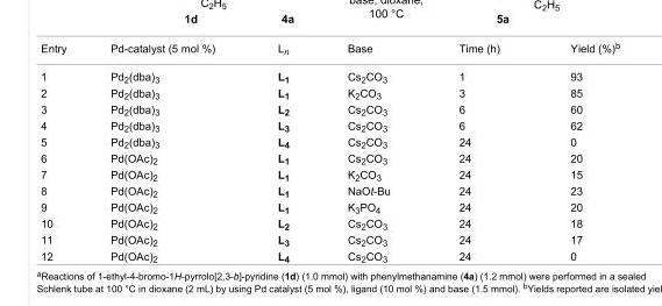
<table><tbody><tr><td>Entry</td><td>Pd-catalyst (5 mol %)</td><td>L<sub>n</sub></td><td>Base</td><td>Time (h)</td><td>Yield (%)<sup>b</sup></td></tr><tr><td>1</td><td>Pd<sub>2</sub>(dba)<sub>3</sub></td><td>L<sub>1</sub></td><td>Cs<sub>2</sub>CO<sub>3</sub></td><td>1</td><td>93</td></tr><tr><td>2</td><td>Pd<sub>2</sub>(dba)<sub>3</sub></td><td>L<sub>1</sub></td><td>K<sub>2</sub>CO<sub>3</sub></td><td>3</td><td>85</td></tr><tr><td>3</td><td>Pd<sub>2</sub>(dba)<sub>3</sub></td><td>L<sub>2</sub></td><td>Cs<sub>2</sub>CO<sub>3</sub></td><td>6</td><td>60</td></tr><tr><td>4</td><td>Pd<sub>2</sub>(dba)<sub>3</sub></td><td>L<sub>3</sub></td><td>Cs<sub>2</sub>CO<sub>3</sub></td><td>6</td><td>62</td></tr><tr><td>5</td><td>Pd<sub>2</sub>(dba)<sub>3</sub></td><td>L<sub>4</sub></td><td>Cs<sub>2</sub>CO<sub>3</sub></td><td>24</td><td>0</td></tr><tr><td>6</td><td>Pd(OAc)<sub>2</sub></td><td>L<sub>1</sub></td><td>Cs<sub>2</sub>CO<sub>3</sub></td><td>24</td><td>20</td></tr><tr><td>7</td><td>Pd(OAc)<sub>2</sub></td><td>L<sub>1</sub></td><td>K<sub>2</sub>CO<sub>3</sub></td><td>24</td><td>15</td></tr><tr><td>8</td><td>Pd(OAc)<sub>2</sub></td><td>L<sub>1</sub></td><td>NaOt-Bu</td><td>24</td><td>23</td></tr><tr><td>9</td><td>Pd(OAc)<sub>2</sub></td><td>L<sub>1</sub></td><td>K<sub>3</sub>PO<sub>4</sub></td><td>24</td><td>20</td></tr><tr><td>10</td><td>Pd(OAc)<sub>2</sub></td><td>L<sub>2</sub></td><td>Cs<sub>2</sub>CO<sub>3</sub></td><td>24</td><td>18</td></tr><tr><td>11</td><td>Pd(OAc)<sub>2</sub></td><td>L<sub>3</sub></td><td>Cs<sub>2</sub>CO<sub>3</sub></td><td>24</td><td>17</td></tr><tr><td>12</td><td>Pd(OAc)<sub>2</sub></td><td>L<sub>4</sub></td><td>Cs<sub>2</sub>CO<sub>3</sub></td><td>24</td><td>0</td></tr></tbody></table>